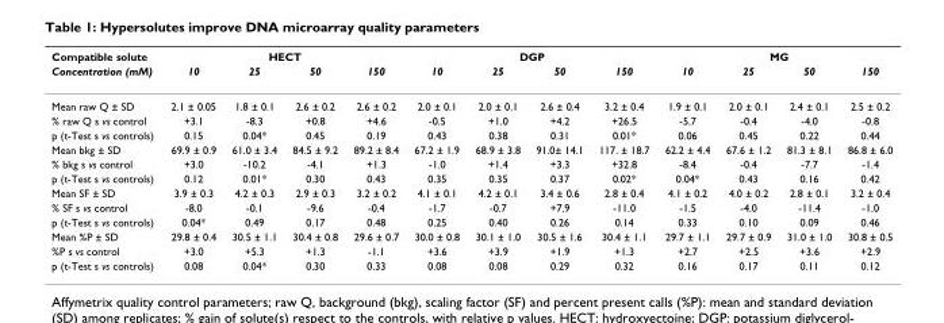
<table><thead><tr><td rowspan="2">Compatible solute Concentration (mM)</td><td colspan="4">HECT</td><td colspan="4">DGP</td><td colspan="4">MG</td></tr><tr><td>10</td><td>25</td><td>50</td><td>150</td><td>10</td><td>25</td><td>50</td><td>150</td><td>10</td><td>25</td><td>50</td><td>150</td></tr></thead><tbody><tr><td>Mean raw Q ± SD</td><td>2.1 ± 0.05</td><td>1.8 ± 0.1</td><td>2.6 ± 0.2</td><td>2.6 ± 0.2</td><td>2.0 ± 0.1</td><td>2.0 ± 0.1</td><td>2.6 ± 0.4</td><td>3.2 ± 0.4</td><td>1.9 ± 0.1</td><td>2.0 ± 0.1</td><td>2.4 ± 0.1</td><td>2.5 ± 0.2</td></tr><tr><td>% raw Q s vs control</td><td>+3.1</td><td>-8.3</td><td>+0.8</td><td>+4.6</td><td>-0.5</td><td>+1.0</td><td>+4.2</td><td>+26.5</td><td>-5.7</td><td>-0.4</td><td>-4.0</td><td>-0.8</td></tr><tr><td>p (t-Test s vs controls)</td><td>0.15</td><td>0.04*</td><td>0.45</td><td>0.19</td><td>0.43</td><td>0.38</td><td>0.31</td><td>0.01*</td><td>0.06</td><td>0.45</td><td>0.22</td><td>0.44</td></tr><tr><td>Mean bkg ± SD</td><td>69.9 ± 0.9</td><td>61.0 ± 3.4</td><td>84.5 ± 9.2</td><td>89.2 ± 8.4</td><td>67.2 ± 1.9</td><td>68.9 ± 3.8</td><td>91.0± 14.1</td><td>117. ± 18.7</td><td>62.2 ± 4.4</td><td>67.6 ± 1.2</td><td>81.3 ± 8.1</td><td>86.8 ± 6.0</td></tr><tr><td>% bkg s vs control</td><td>+3.0</td><td>-10.2</td><td>-4.1</td><td>+1.3</td><td>-1.0</td><td>+1.4</td><td>+3.3</td><td>+32.8</td><td>-8.4</td><td>-0.4</td><td>-7.7</td><td>-1.4</td></tr><tr><td>p (t-Test s vs controls)</td><td>0.12</td><td>0.01*</td><td>0.30</td><td>0.43</td><td>0.35</td><td>0.35</td><td>0.37</td><td>0.02*</td><td>0.04*</td><td>0.43</td><td>0.16</td><td>0.42</td></tr><tr><td>Mean SF ± SD</td><td>3.9 ± 0.3</td><td>4.2 ± 0.3</td><td>2.9 ± 0.3</td><td>3.2 ± 0.2</td><td>4.1 ± 0.1</td><td>4.2 ± 0.1</td><td>3.4 ± 0.6</td><td>2.8 ± 0.4</td><td>4.1 ± 0.2</td><td>4.0 ± 0.2</td><td>2.8 ± 0.1</td><td>3.2 ± 0.4</td></tr><tr><td>% SF s vs control</td><td>-8.0</td><td>-0.1</td><td>-9.6</td><td>-0.4</td><td>-1.7</td><td>-0.7</td><td>+7.9</td><td>-11.0</td><td>-1.5</td><td>-4.0</td><td>-11.4</td><td>-1.0</td></tr><tr><td>p (t-Test s vs controls)</td><td>0.04*</td><td>0.49</td><td>0.17</td><td>0.48</td><td>0.25</td><td>0.40</td><td>0.26</td><td>0.14</td><td>0.33</td><td>0.10</td><td>0.09</td><td>0.46</td></tr><tr><td>Mean %P ± SD</td><td>29.8 ± 0.4</td><td>30.5 ± 1.1</td><td>30.4 ± 0.8</td><td>29.6 ± 0.7</td><td>30.0 ± 0.8</td><td>30.1 ± 1.0</td><td>30.5 ± 1.6</td><td>30.4 ± 1.1</td><td>29.7 ± 1.1</td><td>29.7 ± 0.9</td><td>31.0 ± 1.0</td><td>30.8 ± 0.5</td></tr><tr><td>%P s vs control</td><td>+3.0</td><td>+5.3</td><td>+1.3</td><td>-1.1</td><td>+3.6</td><td>+3.9</td><td>+1.9</td><td>+1.3</td><td>+2.7</td><td>+2.5</td><td>+3.6</td><td>+2.9</td></tr><tr><td>p (t-Test s vs controls)</td><td>0.08</td><td>0.04*</td><td>0.30</td><td>0.33</td><td>0.08</td><td>0.08</td><td>0.29</td><td>0.32</td><td>0.16</td><td>0.17</td><td>0.11</td><td>0.12</td></tr></tbody></table>